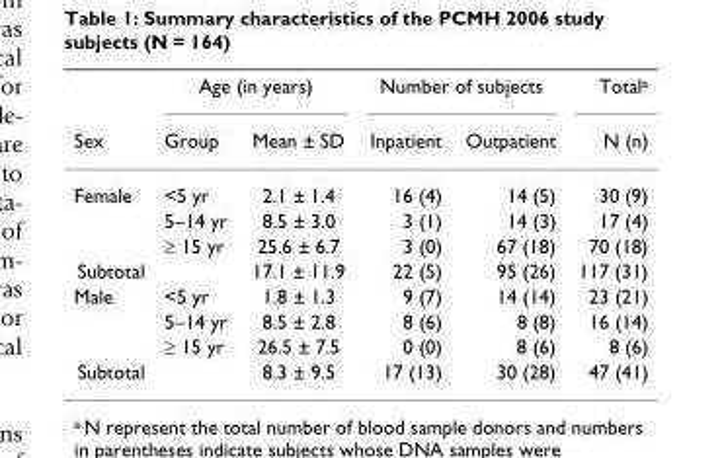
<table><thead><tr><td rowspan="2">Sex</td><td colspan="2">Age (in years)</td><td colspan="2">Number of subjects</td><td rowspan="2">Total<sup>a</sup> N (n)</td></tr><tr><td>Group</td><td>Mean ± SD</td><td>Inpatient</td><td>Outpatient</td></tr></thead><tbody><tr><td rowspan="3">Female</td><td>&lt;5 yr</td><td>2.1 ± 1.4</td><td>16 (4)</td><td>14 (5)</td><td>30 (9)</td></tr><tr><td>5–14 yr</td><td>8.5 ± 3.0</td><td>3 (1)</td><td>14 (3)</td><td>17 (4)</td></tr><tr><td>≥ 15 yr</td><td>25.6 ± 6.7</td><td>3 (0)</td><td>67 (18)</td><td>70 (18)</td></tr><tr><td>Subtotal</td><td></td><td>17.1 ± 11.9</td><td>22 (5)</td><td>95 (26)</td><td>117 (31)</td></tr><tr><td rowspan="3">Male</td><td>&lt;5 yr</td><td>1.8 ± 1.3</td><td>9 (7)</td><td>14 (14)</td><td>23 (21)</td></tr><tr><td>5–14 yr</td><td>8.5 ± 2.8</td><td>8 (6)</td><td>8 (8)</td><td>16 (14)</td></tr><tr><td>≥ 15 yr</td><td>26.5 ± 7.5</td><td>0 (0)</td><td>8 (6)</td><td>8 (6)</td></tr><tr><td>Subtotal</td><td></td><td>8.3 ± 9.5</td><td>17 (13)</td><td>30 (28)</td><td>47 (41)</td></tr></tbody></table>